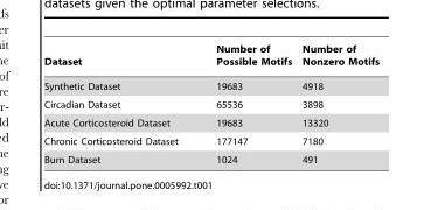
<table><thead><tr><td>Dataset</td><td>Number of Possible Motifs</td><td>Number of Nonzero Motifs</td></tr></thead><tbody><tr><td>Synthetic Dataset</td><td>19683</td><td>4918</td></tr><tr><td>Circadian Dataset</td><td>65536</td><td>3898</td></tr><tr><td>Acute Corticosteroid Dataset</td><td>19683</td><td>13320</td></tr><tr><td>Chronic Corticosteroid Dataset</td><td>177147</td><td>7180</td></tr><tr><td>Burn Dataset</td><td>1024</td><td>491</td></tr></tbody></table>